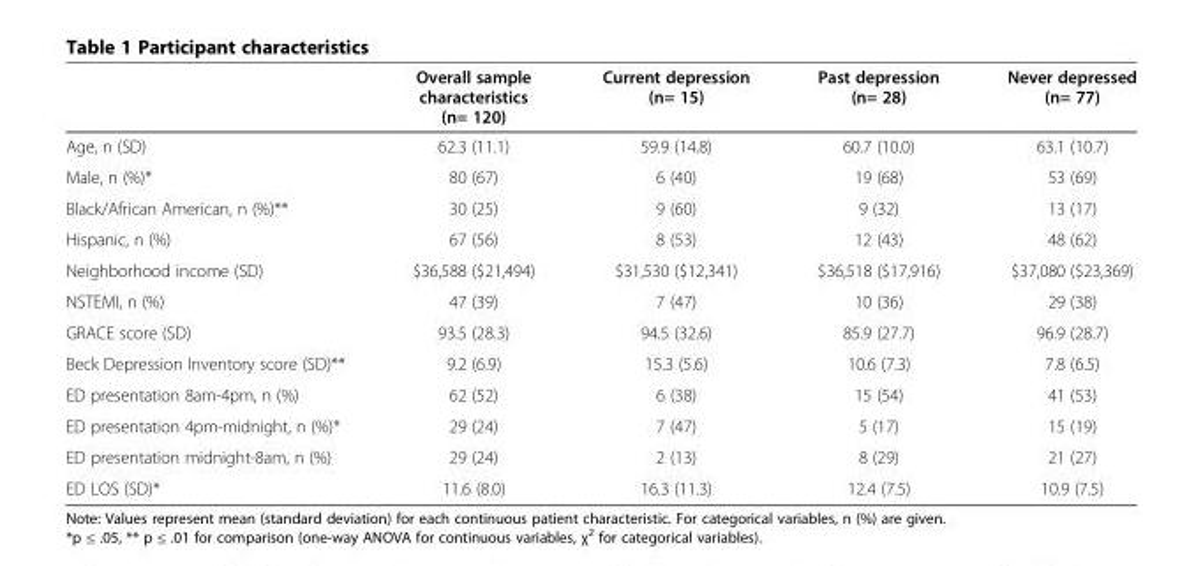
<table><thead><tr><td></td><td>Overall sample characteristics (n= 120)</td><td>Current depression (n= 15)</td><td>Past depression (n= 28)</td><td>Never depressed (n= 77)</td></tr></thead><tbody><tr><td>Age, n (SD)</td><td>62.3 (11.1)</td><td>59.9 (14.8)</td><td>60.7 (10.0)</td><td>63.1 (10.7)</td></tr><tr><td>Male, n (%)*</td><td>80 (67)</td><td>6 (40)</td><td>19 (68)</td><td>53 (69)</td></tr><tr><td>Black/African American, n (%)**</td><td>30 (25)</td><td>9 (60)</td><td>9 (32)</td><td>13 (17)</td></tr><tr><td>Hispanic, n (%)</td><td>67 (56)</td><td>8 (53)</td><td>12 (43)</td><td>48 (62)</td></tr><tr><td>Neighborhood income (SD)</td><td>$36,588 ($21,494)</td><td>$31,530 ($12,341)</td><td>$36,518 ($17,916)</td><td>$37,080 ($23,369)</td></tr><tr><td>NSTEMI, n (%)</td><td>47 (39)</td><td>7 (47)</td><td>10 (36)</td><td>29 (38)</td></tr><tr><td>GRACE score (SD)</td><td>93.5 (28.3)</td><td>94.5 (32.6)</td><td>85.9 (27.7)</td><td>96.9 (28.7)</td></tr><tr><td>Beck Depression Inventory score (SD)**</td><td>9.2 (6.9)</td><td>15.3 (5.6)</td><td>10.6 (7.3)</td><td>7.8 (6.5)</td></tr><tr><td>ED presentation 8am-4pm, n (%)</td><td>62 (52)</td><td>6 (38)</td><td>15 (54)</td><td>41 (53)</td></tr><tr><td>ED presentation 4pm-midnight, n (%)*</td><td>29 (24)</td><td>7 (47)</td><td>5 (17)</td><td>15 (19)</td></tr><tr><td>ED presentation midnight-8am, n (%)</td><td>29 (24)</td><td>2 (13)</td><td>8 (29)</td><td>21 (27)</td></tr><tr><td>ED LOS (SD)*</td><td>11.6 (8.0)</td><td>16.3 (11.3)</td><td>12.4 (7.5)</td><td>10.9 (7.5)</td></tr></tbody></table>